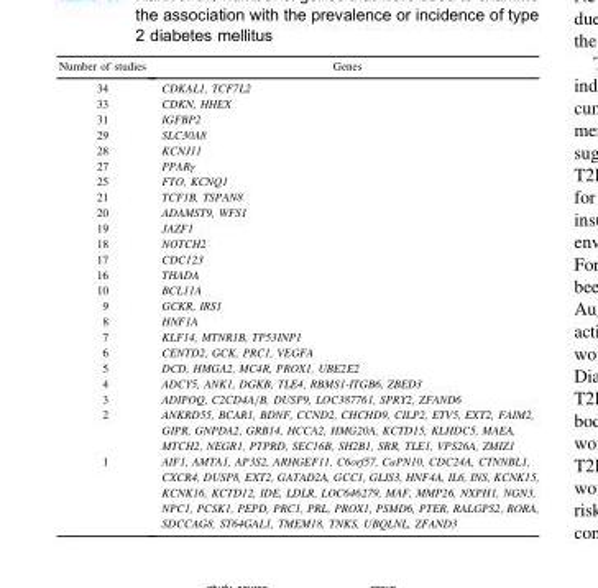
<table><thead><tr><td>Number of studies</td><td>Genes</td></tr></thead><tbody><tr><td>34</td><td>CDKAL1, TCF7L2</td></tr><tr><td>33</td><td>CDKN, HHEX</td></tr><tr><td>31</td><td>IGFBP2</td></tr><tr><td>29</td><td>SLC30A8</td></tr><tr><td>28</td><td>KCNJ11</td></tr><tr><td>27</td><td>PPARγ</td></tr><tr><td>25</td><td>FTO, KCNQ1</td></tr><tr><td>21</td><td>TCF1B, TSPAN8</td></tr><tr><td>20</td><td>ADAMST9, WFS1</td></tr><tr><td>19</td><td>JAZF1</td></tr><tr><td>18</td><td>NOTCH2</td></tr><tr><td>17</td><td>CDC123</td></tr><tr><td>16</td><td>THADA</td></tr><tr><td>10</td><td>BCL11A</td></tr><tr><td>9</td><td>GCKR, IRS1</td></tr><tr><td>8</td><td>HNF1A</td></tr><tr><td>7</td><td>KLF14, MTNR1B, TP53INP1</td></tr><tr><td>6</td><td>CENTD2, GCK, PRC1, VEGFA</td></tr><tr><td>5</td><td>DCD, HMGA2, MC4R, PROX1, UBE2E2</td></tr><tr><td>4</td><td>ADCY5, ANK1, DGKB, TLE4, RBMS1-ITGB6, ZBED3</td></tr><tr><td>3</td><td>ADIPOQ, C2CD4A=B, DUSP9, LOC387761, SPRY2, ZFAND6</td></tr><tr><td>2</td><td>ANKRD55, BCAR1, BDNF, CCND2, CHCHD9, CILP2, ETV5, EXT2, FAIM2, GIPR, GNPDA2, GRB14, HCCA2, HMG20A, KCTD15, KLHDC5, MAEA, MTCH2, NEGR1, PTPRD, SEC16B, SH2B1, SRR, TLE1, VPS26A, ZMIZ1</td></tr><tr><td>1</td><td>AIF1, AMTA1, AP3S2, ARHGEF11, C6orf57, CaPN10, CDC24A, CTNNBL1, CXCR4, DUSP8, EXT2, GATAD2A, GCC1, GLIS3, HNF4A, IL6, INS, KCNK15, KCNK16, KCTD12, IDE, LDLR, LOC646279, MAF, MMP26, NXPH1, NGN3, NPC1, PCSK1, PEPD, PRC1, PRL, PROX1, PSMD6, PTER, RALGPS2, RORA, SDCCAG8, ST64GAL1, TMEM18, TNKS, UBQLNL, ZFAND3</td></tr></tbody></table>